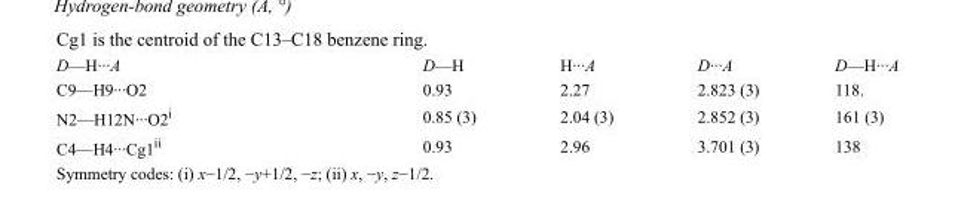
<table><tbody><tr><td>D—H···A</td><td>D—H</td><td>H···A</td><td>D···A</td><td>D—H···A</td></tr><tr><td>C9—H9···O2</td><td>0.93</td><td>2.27</td><td>2.823 (3)</td><td>118.</td></tr><tr><td>N2—H12N···O2<sup>i</sup></td><td>0.85 (3)</td><td>2.04 (3)</td><td>2.852 (3)</td><td>161 (3)</td></tr><tr><td>C4—H4···Cg1<sup>ii</sup></td><td>0.93</td><td>2.96</td><td>3.701 (3)</td><td>138</td></tr></tbody></table>